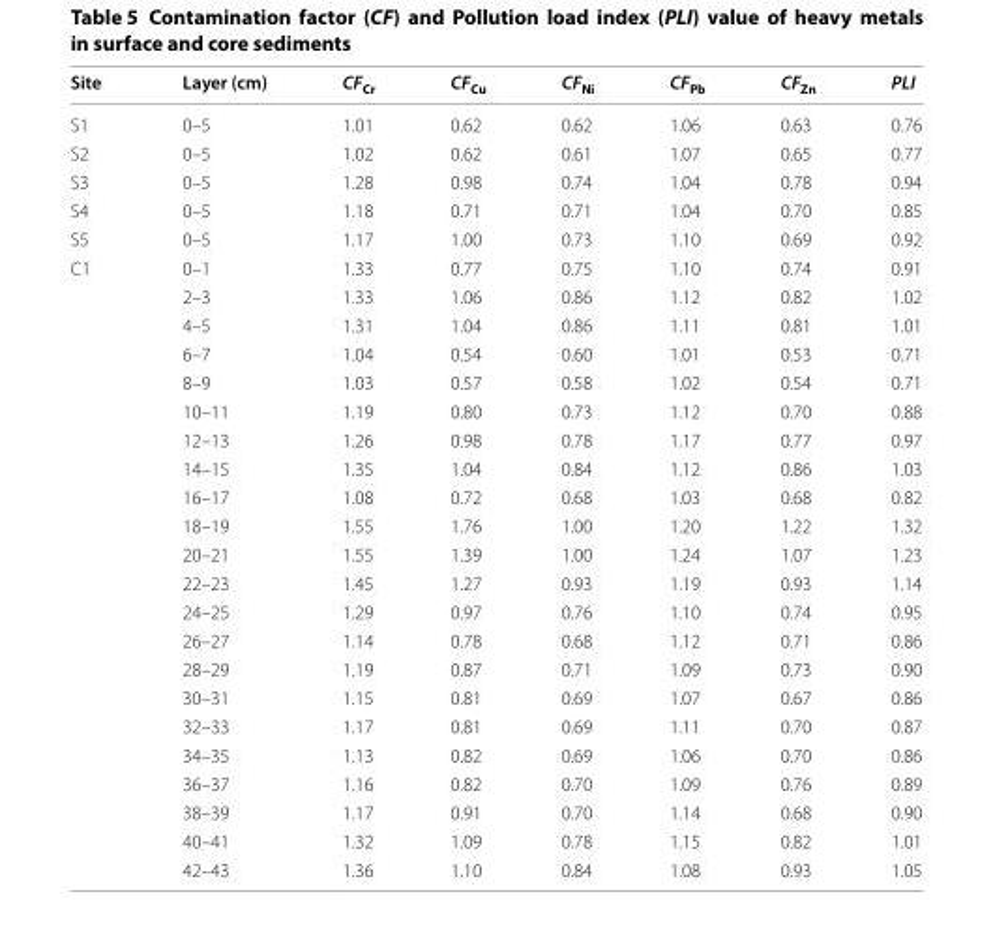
<table><thead><tr><td>Site</td><td>Layer (cm)</td><td>CF<sub>Cr</sub></td><td>CF<sub>Cu</sub></td><td>CF<sub>Ni</sub></td><td>CF<sub>Pb</sub></td><td>CF<sub>Zn</sub></td><td>PLI</td></tr></thead><tbody><tr><td>S1</td><td>0–5</td><td>1.01</td><td>0.62</td><td>0.62</td><td>1.06</td><td>0.63</td><td>0.76</td></tr><tr><td>S2</td><td>0–5</td><td>1.02</td><td>0.62</td><td>0.61</td><td>1.07</td><td>0.65</td><td>0.77</td></tr><tr><td>S3</td><td>0–5</td><td>1.28</td><td>0.98</td><td>0.74</td><td>1.04</td><td>0.78</td><td>0.94</td></tr><tr><td>S4</td><td>0–5</td><td>1.18</td><td>0.71</td><td>0.71</td><td>1.04</td><td>0.70</td><td>0.85</td></tr><tr><td>S5</td><td>0–5</td><td>1.17</td><td>1.00</td><td>0.73</td><td>1.10</td><td>0.69</td><td>0.92</td></tr><tr><td rowspan="22">C1</td><td>0–1</td><td>1.33</td><td>0.77</td><td>0.75</td><td>1.10</td><td>0.74</td><td>0.91</td></tr><tr><td>2–3</td><td>1.33</td><td>1.06</td><td>0.86</td><td>1.12</td><td>0.82</td><td>1.02</td></tr><tr><td>4–5</td><td>1.31</td><td>1.04</td><td>0.86</td><td>1.11</td><td>0.81</td><td>1.01</td></tr><tr><td>6–7</td><td>1.04</td><td>0.54</td><td>0.60</td><td>1.01</td><td>0.53</td><td>0.71</td></tr><tr><td>8–9</td><td>1.03</td><td>0.57</td><td>0.58</td><td>1.02</td><td>0.54</td><td>0.71</td></tr><tr><td>10–11</td><td>1.19</td><td>0.80</td><td>0.73</td><td>1.12</td><td>0.70</td><td>0.88</td></tr><tr><td>12–13</td><td>1.26</td><td>0.98</td><td>0.78</td><td>1.17</td><td>0.77</td><td>0.97</td></tr><tr><td>14–15</td><td>1.35</td><td>1.04</td><td>0.84</td><td>1.12</td><td>0.86</td><td>1.03</td></tr><tr><td>16–17</td><td>1.08</td><td>0.72</td><td>0.68</td><td>1.03</td><td>0.68</td><td>0.82</td></tr><tr><td>18–19</td><td>1.55</td><td>1.76</td><td>1.00</td><td>1.20</td><td>1.22</td><td>1.32</td></tr><tr><td>20–21</td><td>1.55</td><td>1.39</td><td>1.00</td><td>1.24</td><td>1.07</td><td>1.23</td></tr><tr><td>22–23</td><td>1.45</td><td>1.27</td><td>0.93</td><td>1.19</td><td>0.93</td><td>1.14</td></tr><tr><td>24–25</td><td>1.29</td><td>0.97</td><td>0.76</td><td>1.10</td><td>0.74</td><td>0.95</td></tr><tr><td>26–27</td><td>1.14</td><td>0.78</td><td>0.68</td><td>1.12</td><td>0.71</td><td>0.86</td></tr><tr><td>28–29</td><td>1.19</td><td>0.87</td><td>0.71</td><td>1.09</td><td>0.73</td><td>0.90</td></tr><tr><td>30–31</td><td>1.15</td><td>0.81</td><td>0.69</td><td>1.07</td><td>0.67</td><td>0.86</td></tr><tr><td>32–33</td><td>1.17</td><td>0.81</td><td>0.69</td><td>1.11</td><td>0.70</td><td>0.87</td></tr><tr><td>34–35</td><td>1.13</td><td>0.82</td><td>0.69</td><td>1.06</td><td>0.70</td><td>0.86</td></tr><tr><td>36–37</td><td>1.16</td><td>0.82</td><td>0.70</td><td>1.09</td><td>0.76</td><td>0.89</td></tr><tr><td>38–39</td><td>1.17</td><td>0.91</td><td>0.70</td><td>1.14</td><td>0.68</td><td>0.90</td></tr><tr><td>40–41</td><td>1.32</td><td>1.09</td><td>0.78</td><td>1.15</td><td>0.82</td><td>1.01</td></tr><tr><td>42–43</td><td>1.36</td><td>1.10</td><td>0.84</td><td>1.08</td><td>0.93</td><td>1.05</td></tr></tbody></table>